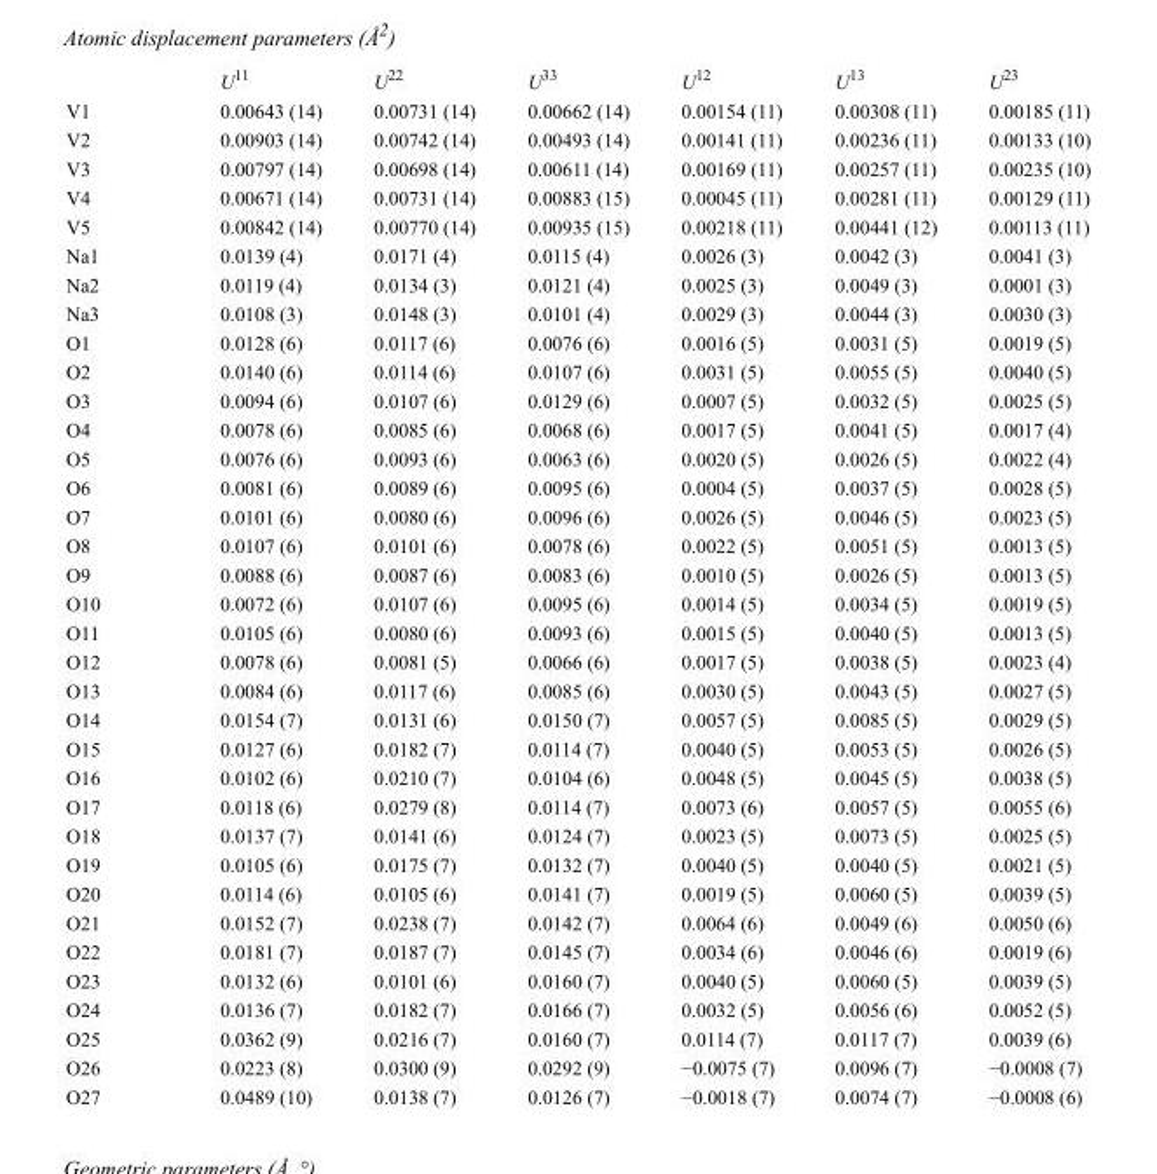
<table><thead><tr><td></td><td>U<sup>11</sup></td><td>U<sup>22</sup></td><td>U<sup>33</sup></td><td>U<sup>12</sup></td><td>U<sup>13</sup></td><td>U<sup>23</sup></td></tr></thead><tbody><tr><td>V1</td><td>0.00643 (14)</td><td>0.00731 (14)</td><td>0.00662 (14)</td><td>0.00154 (11)</td><td>0.00308 (11)</td><td>0.00185 (11)</td></tr><tr><td>V2</td><td>0.00903 (14)</td><td>0.00742 (14)</td><td>0.00493 (14)</td><td>0.00141 (11)</td><td>0.00236 (11)</td><td>0.00133 (10)</td></tr><tr><td>V3</td><td>0.00797 (14)</td><td>0.00698 (14)</td><td>0.00611 (14)</td><td>0.00169 (11)</td><td>0.00257 (11)</td><td>0.00235 (10)</td></tr><tr><td>V4</td><td>0.00671 (14)</td><td>0.00731 (14)</td><td>0.00883 (15)</td><td>0.00045 (11)</td><td>0.00281 (11)</td><td>0.00129 (11)</td></tr><tr><td>V5</td><td>0.00842 (14)</td><td>0.00770 (14)</td><td>0.00935 (15)</td><td>0.00218 (11)</td><td>0.00441 (12)</td><td>0.00113 (11)</td></tr><tr><td>Na1</td><td>0.0139 (4)</td><td>0.0171 (4)</td><td>0.0115 (4)</td><td>0.0026 (3)</td><td>0.0042 (3)</td><td>0.0041 (3)</td></tr><tr><td>Na2</td><td>0.0119 (4)</td><td>0.0134 (3)</td><td>0.0121 (4)</td><td>0.0025 (3)</td><td>0.0049 (3)</td><td>0.0001 (3)</td></tr><tr><td>Na3</td><td>0.0108 (3)</td><td>0.0148 (3)</td><td>0.0101 (4)</td><td>0.0029 (3)</td><td>0.0044 (3)</td><td>0.0030 (3)</td></tr><tr><td>O1</td><td>0.0128 (6)</td><td>0.0117 (6)</td><td>0.0076 (6)</td><td>0.0016 (5)</td><td>0.0031 (5)</td><td>0.0019 (5)</td></tr><tr><td>O2</td><td>0.0140 (6)</td><td>0.0114 (6)</td><td>0.0107 (6)</td><td>0.0031 (5)</td><td>0.0055 (5)</td><td>0.0040 (5)</td></tr><tr><td>O3</td><td>0.0094 (6)</td><td>0.0107 (6)</td><td>0.0129 (6)</td><td>0.0007 (5)</td><td>0.0032 (5)</td><td>0.0025 (5)</td></tr><tr><td>O4</td><td>0.0078 (6)</td><td>0.0085 (6)</td><td>0.0068 (6)</td><td>0.0017 (5)</td><td>0.0041 (5)</td><td>0.0017 (4)</td></tr><tr><td>O5</td><td>0.0076 (6)</td><td>0.0093 (6)</td><td>0.0063 (6)</td><td>0.0020 (5)</td><td>0.0026 (5)</td><td>0.0022 (4)</td></tr><tr><td>O6</td><td>0.0081 (6)</td><td>0.0089 (6)</td><td>0.0095 (6)</td><td>0.0004 (5)</td><td>0.0037 (5)</td><td>0.0028 (5)</td></tr><tr><td>O7</td><td>0.0101 (6)</td><td>0.0080 (6)</td><td>0.0096 (6)</td><td>0.0026 (5)</td><td>0.0046 (5)</td><td>0.0023 (5)</td></tr><tr><td>O8</td><td>0.0107 (6)</td><td>0.0101 (6)</td><td>0.0078 (6)</td><td>0.0022 (5)</td><td>0.0051 (5)</td><td>0.0013 (5)</td></tr><tr><td>O9</td><td>0.0088 (6)</td><td>0.0087 (6)</td><td>0.0083 (6)</td><td>0.0010 (5)</td><td>0.0026 (5)</td><td>0.0013 (5)</td></tr><tr><td>O10</td><td>0.0072 (6)</td><td>0.0107 (6)</td><td>0.0095 (6)</td><td>0.0014 (5)</td><td>0.0034 (5)</td><td>0.0019 (5)</td></tr><tr><td>O11</td><td>0.0105 (6)</td><td>0.0080 (6)</td><td>0.0093 (6)</td><td>0.0015 (5)</td><td>0.0040 (5)</td><td>0.0013 (5)</td></tr><tr><td>O12</td><td>0.0078 (6)</td><td>0.0081 (5)</td><td>0.0066 (6)</td><td>0.0017 (5)</td><td>0.0038 (5)</td><td>0.0023 (4)</td></tr><tr><td>O13</td><td>0.0084 (6)</td><td>0.0117 (6)</td><td>0.0085 (6)</td><td>0.0030 (5)</td><td>0.0043 (5)</td><td>0.0027 (5)</td></tr><tr><td>O14</td><td>0.0154 (7)</td><td>0.0131 (6)</td><td>0.0150 (7)</td><td>0.0057 (5)</td><td>0.0085 (5)</td><td>0.0029 (5)</td></tr><tr><td>O15</td><td>0.0127 (6)</td><td>0.0182 (7)</td><td>0.0114 (7)</td><td>0.0040 (5)</td><td>0.0053 (5)</td><td>0.0026 (5)</td></tr><tr><td>O16</td><td>0.0102 (6)</td><td>0.0210 (7)</td><td>0.0104 (6)</td><td>0.0048 (5)</td><td>0.0045 (5)</td><td>0.0038 (5)</td></tr><tr><td>O17</td><td>0.0118 (6)</td><td>0.0279 (8)</td><td>0.0114 (7)</td><td>0.0073 (6)</td><td>0.0057 (5)</td><td>0.0055 (6)</td></tr><tr><td>O18</td><td>0.0137 (7)</td><td>0.0141 (6)</td><td>0.0124 (7)</td><td>0.0023 (5)</td><td>0.0073 (5)</td><td>0.0025 (5)</td></tr><tr><td>O19</td><td>0.0105 (6)</td><td>0.0175 (7)</td><td>0.0132 (7)</td><td>0.0040 (5)</td><td>0.0040 (5)</td><td>0.0021 (5)</td></tr><tr><td>O20</td><td>0.0114 (6)</td><td>0.0105 (6)</td><td>0.0141 (7)</td><td>0.0019 (5)</td><td>0.0060 (5)</td><td>0.0039 (5)</td></tr><tr><td>O21</td><td>0.0152 (7)</td><td>0.0238 (7)</td><td>0.0142 (7)</td><td>0.0064 (6)</td><td>0.0049 (6)</td><td>0.0050 (6)</td></tr><tr><td>O22</td><td>0.0181 (7)</td><td>0.0187 (7)</td><td>0.0145 (7)</td><td>0.0034 (6)</td><td>0.0046 (6)</td><td>0.0019 (6)</td></tr><tr><td>O23</td><td>0.0132 (6)</td><td>0.0101 (6)</td><td>0.0160 (7)</td><td>0.0040 (5)</td><td>0.0060 (5)</td><td>0.0039 (5)</td></tr><tr><td>O24</td><td>0.0136 (7)</td><td>0.0182 (7)</td><td>0.0166 (7)</td><td>0.0032 (5)</td><td>0.0056 (6)</td><td>0.0052 (5)</td></tr><tr><td>O25</td><td>0.0362 (9)</td><td>0.0216 (7)</td><td>0.0160 (7)</td><td>0.0114 (7)</td><td>0.0117 (7)</td><td>0.0039 (6)</td></tr><tr><td>O26</td><td>0.0223 (8)</td><td>0.0300 (9)</td><td>0.0292 (9)</td><td>−0.0075 (7)</td><td>0.0096 (7)</td><td>−0.0008 (7)</td></tr><tr><td>O27</td><td>0.0489 (10)</td><td>0.0138 (7)</td><td>0.0126 (7)</td><td>−0.0018 (7)</td><td>0.0074 (7)</td><td>−0.0008 (6)</td></tr></tbody></table>